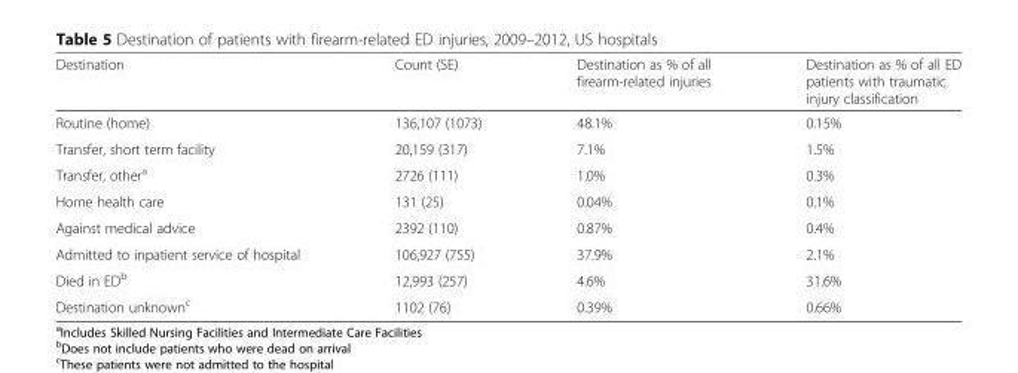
<table><thead><tr><td>Destination</td><td>Count (SE)</td><td>Destination as % of all firearm-related injuries</td><td>Destination as % of all ED patients with traumatic injury classification</td></tr></thead><tbody><tr><td>Routine (home)</td><td>136,107 (1073)</td><td>48.1%</td><td>0.15%</td></tr><tr><td>Transfer, short term facility</td><td>20,159 (317)</td><td>7.1%</td><td>1.5%</td></tr><tr><td>Transfer, other<sup>a</sup></td><td>2726 (111)</td><td>1.0%</td><td>0.3%</td></tr><tr><td>Home health care</td><td>131 (25)</td><td>0.04%</td><td>0.1%</td></tr><tr><td>Against medical advice</td><td>2392 (110)</td><td>0.87%</td><td>0.4%</td></tr><tr><td>Admitted to inpatient service of hospital</td><td>106,927 (755)</td><td>37.9%</td><td>2.1%</td></tr><tr><td>Died in ED<sup>b</sup></td><td>12,993 (257)</td><td>4.6%</td><td>31.6%</td></tr><tr><td>Destination unknown<sup>c</sup></td><td>1102 (76)</td><td>0.39%</td><td>0.66%</td></tr></tbody></table>